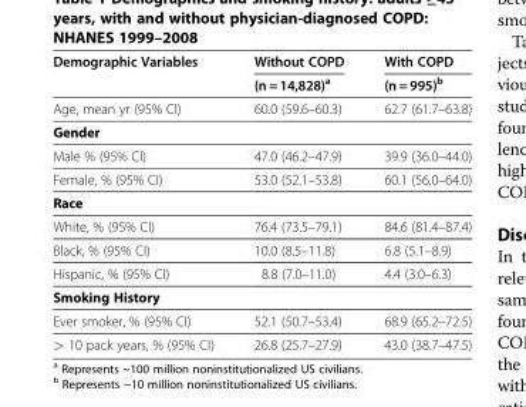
<table><thead><tr><td rowspan="2">Demographic Variables</td><td rowspan="2">Without COPD (n = 14,828)<sup>a</sup></td><td rowspan="2">With COPD (n = 995)<sup>b</sup></td></tr><tr></tr></thead><tbody><tr><td>Age, mean yr (95% CI)</td><td>60.0 (59.6–60.3)</td><td>62.7 (61.7–63.8)</td></tr><tr><td colspan="3">Gender</td></tr><tr><td>Male % (95% CI)</td><td>47.0 (46.2–47.9)</td><td>39.9 (36.0–44.0)</td></tr><tr><td>Female, % (95% CI)</td><td>53.0 (52.1–53.8)</td><td>60.1 (56.0–64.0)</td></tr><tr><td colspan="3">Race</td></tr><tr><td>White, % (95% CI)</td><td>76.4 (73.5–79.1)</td><td>84.6 (81.4–87.4)</td></tr><tr><td>Black, % (95% CI)</td><td>10.0 (8.5–11.8)</td><td>6.8 (5.1–8.9)</td></tr><tr><td>Hispanic, % (95% CI)</td><td>8.8 (7.0–11.0)</td><td>4.4 (3.0–6.3)</td></tr><tr><td colspan="3">Smoking History</td></tr><tr><td>Ever smoker, % (95% CI)</td><td>52.1 (50.7–53.4)</td><td>68.9 (65.2–72.5)</td></tr><tr><td>&gt; 10 pack years, % (95% CI)</td><td>26.8 (25.7–27.9)</td><td>43.0 (38.7–47.5)</td></tr></tbody></table>